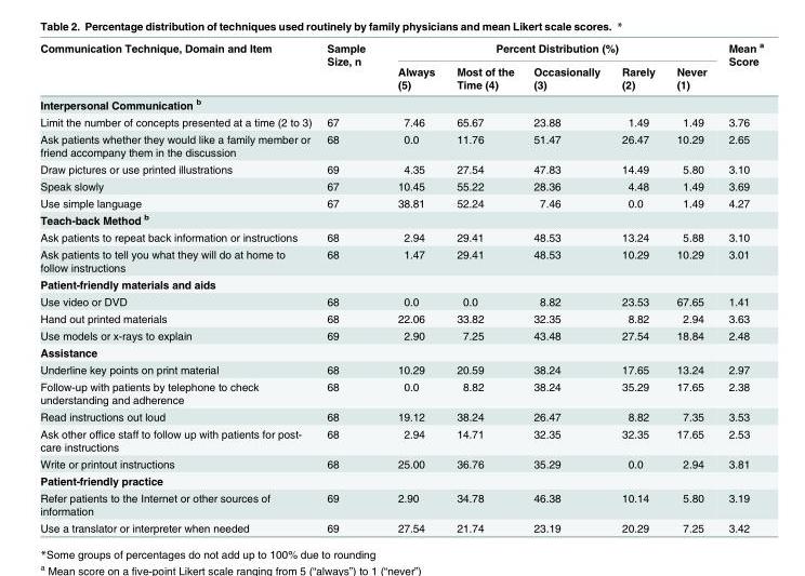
<table><thead><tr><td rowspan="2">Communication Technique, Domain and Item</td><td rowspan="2">Sample Size, n</td><td colspan="5">Percent Distribution (%)</td><td rowspan="2">Mean <sup>a</sup> Score</td></tr><tr><td>Always (5)</td><td>Most of the Time (4)</td><td>Occasionally (3)</td><td>Rarely (2)</td><td>Never (1)</td></tr></thead><tbody><tr><td colspan="8">Interpersonal Communication <sup>b</sup></td></tr><tr><td>Limit the number of concepts presented at a time (2 to 3)</td><td>67</td><td>7.46</td><td>65.67</td><td>23.88</td><td>1.49</td><td>1.49</td><td>3.76</td></tr><tr><td>Ask patients whether they would like a family member or friend accompany them in the discussion</td><td>68</td><td>0.0</td><td>11.76</td><td>51.47</td><td>26.47</td><td>10.29</td><td>2.65</td></tr><tr><td>Draw pictures or use printed illustrations</td><td>69</td><td>4.35</td><td>27.54</td><td>47.83</td><td>14.49</td><td>5.80</td><td>3.10</td></tr><tr><td>Speak slowly</td><td>67</td><td>10.45</td><td>55.22</td><td>28.36</td><td>4.48</td><td>1.49</td><td>3.69</td></tr><tr><td>Use simple language</td><td>67</td><td>38.81</td><td>52.24</td><td>7.46</td><td>0.0</td><td>1.49</td><td>4.27</td></tr><tr><td colspan="8">Teach-back Method <sup>b</sup></td></tr><tr><td>Ask patients to repeat back information or instructions</td><td>68</td><td>2.94</td><td>29.41</td><td>48.53</td><td>13.24</td><td>5.88</td><td>3.10</td></tr><tr><td>Ask patients to tell you what they will do at home to follow instructions</td><td>68</td><td>1.47</td><td>29.41</td><td>48.53</td><td>10.29</td><td>10.29</td><td>3.01</td></tr><tr><td colspan="8">Patient-friendly materials and aids</td></tr><tr><td>Use video or DVD</td><td>68</td><td>0.0</td><td>0.0</td><td>8.82</td><td>23.53</td><td>67.65</td><td>1.41</td></tr><tr><td>Hand out printed materials</td><td>68</td><td>22.06</td><td>33.82</td><td>32.35</td><td>8.82</td><td>2.94</td><td>3.63</td></tr><tr><td>Use models or x-rays to explain</td><td>69</td><td>2.90</td><td>7.25</td><td>43.48</td><td>27.54</td><td>18.84</td><td>2.48</td></tr><tr><td colspan="8">Assistance</td></tr><tr><td>Underline key points on print material</td><td>68</td><td>10.29</td><td>20.59</td><td>38.24</td><td>17.65</td><td>13.24</td><td>2.97</td></tr><tr><td>Follow-up with patients by telephone to check understanding and adherence</td><td>68</td><td>0.0</td><td>8.82</td><td>38.24</td><td>35.29</td><td>17.65</td><td>2.38</td></tr><tr><td>Read instructions out loud</td><td>68</td><td>19.12</td><td>38.24</td><td>26.47</td><td>8.82</td><td>7.35</td><td>3.53</td></tr><tr><td>Ask other office staff to follow up with patients for post- care instructions</td><td>68</td><td>2.94</td><td>14.71</td><td>32.35</td><td>32.35</td><td>17.65</td><td>2.53</td></tr><tr><td>Write or printout instructions</td><td>68</td><td>25.00</td><td>36.76</td><td>35.29</td><td>0.0</td><td>2.94</td><td>3.81</td></tr><tr><td colspan="8">Patient-friendly practice</td></tr><tr><td>Refer patients to the Internet or other sources of information</td><td>69</td><td>2.90</td><td>34.78</td><td>46.38</td><td>10.14</td><td>5.80</td><td>3.19</td></tr><tr><td>Use a translator or interpreter when needed</td><td>69</td><td>27.54</td><td>21.74</td><td>23.19</td><td>20.29</td><td>7.25</td><td>3.42</td></tr></tbody></table>